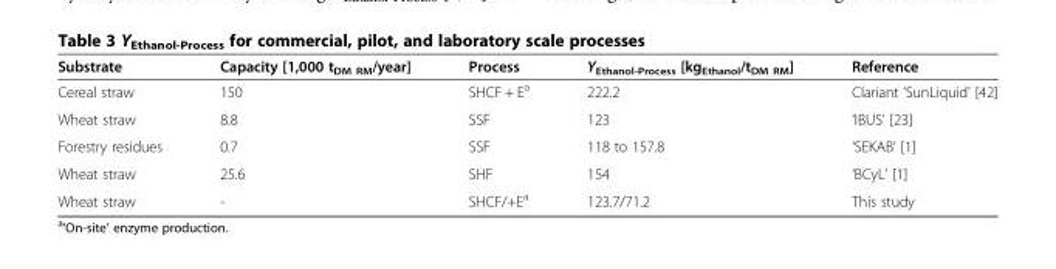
<table><thead><tr><td>Substrate</td><td>Capacity [1,000 t<sub>DM RM</sub>/year]</td><td>Process</td><td>Y<sub>Ethanol-Process</sub> [kg<sub>Ethanol</sub>/t<sub>DM RM</sub>]</td><td>Reference</td></tr></thead><tbody><tr><td>Cereal straw</td><td>150</td><td>SHCF + E<sup>a</sup></td><td>222.2</td><td>Clariant ‘SunLiquid’ [42]</td></tr><tr><td>Wheat straw</td><td>8.8</td><td>SSF</td><td>123</td><td>‘IBUS’ [23]</td></tr><tr><td>Forestry residues</td><td>0.7</td><td>SSF</td><td>118 to 157.8</td><td>‘SEKAB’ [1]</td></tr><tr><td>Wheat straw</td><td>25.6</td><td>SHF</td><td>154</td><td>‘BCyL’ [1]</td></tr><tr><td>Wheat straw</td><td>-</td><td>SHCF/+E<sup>a</sup></td><td>123.7/71.2</td><td>This study</td></tr></tbody></table>